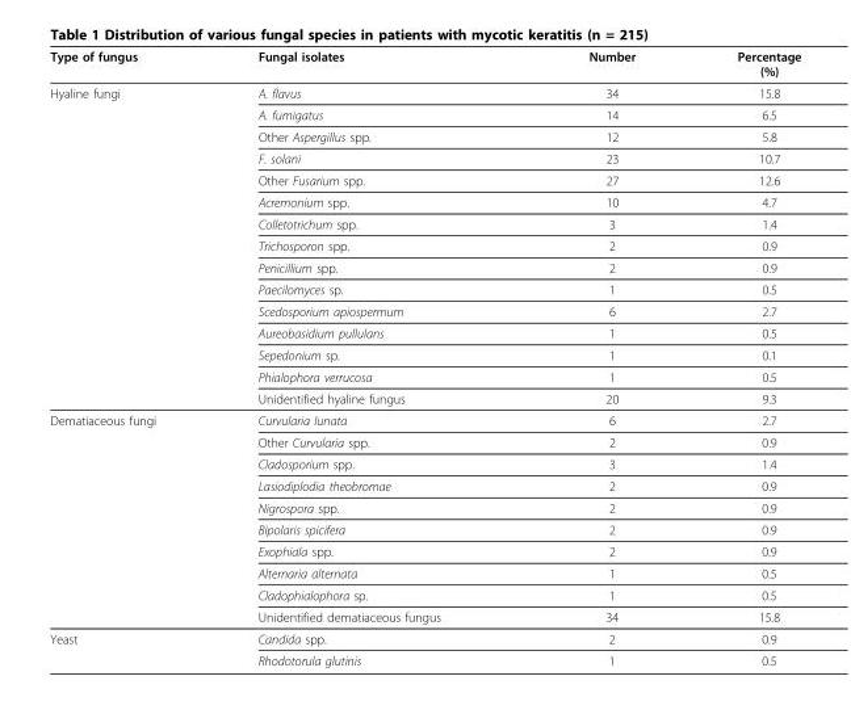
<table><thead><tr><td>Type of fungus</td><td>Fungal isolates</td><td>Number</td><td>Percentage (%)</td></tr></thead><tbody><tr><td rowspan="15">Hyaline fungi</td><td>A. flavus</td><td>34</td><td>15.8</td></tr><tr><td>A. fumigatus</td><td>14</td><td>6.5</td></tr><tr><td>Other Aspergillus spp.</td><td>12</td><td>5.8</td></tr><tr><td>F. solani</td><td>23</td><td>10.7</td></tr><tr><td>Other Fusarium spp.</td><td>27</td><td>12.6</td></tr><tr><td>Acremonium spp.</td><td>10</td><td>4.7</td></tr><tr><td>Colletotrichum spp.</td><td>3</td><td>1.4</td></tr><tr><td>Trichosporon spp.</td><td>2</td><td>0.9</td></tr><tr><td>Penicillium spp.</td><td>2</td><td>0.9</td></tr><tr><td>Paecilomyces sp.</td><td>1</td><td>0.5</td></tr><tr><td>Scedosporium apiospermum</td><td>6</td><td>2.7</td></tr><tr><td>Aureobasidium pullulans</td><td>1</td><td>0.5</td></tr><tr><td>Sepedonium sp.</td><td>1</td><td>0.1</td></tr><tr><td>Phialophora verrucosa</td><td>1</td><td>0.5</td></tr><tr><td>Unidentified hyaline fungus</td><td>20</td><td>9.3</td></tr><tr><td rowspan="10">Dematiaceous fungi</td><td>Curvularia lunata</td><td>6</td><td>2.7</td></tr><tr><td>Other Curvularia spp.</td><td>2</td><td>0.9</td></tr><tr><td>Cladosporium spp.</td><td>3</td><td>1.4</td></tr><tr><td>Lasiodiplodia theobromae</td><td>2</td><td>0.9</td></tr><tr><td>Nigrospora spp.</td><td>2</td><td>0.9</td></tr><tr><td>Bipolaris spicifera</td><td>2</td><td>0.9</td></tr><tr><td>Exophiala spp.</td><td>2</td><td>0.9</td></tr><tr><td>Alternaria alternata</td><td>1</td><td>0.5</td></tr><tr><td>Cladophialophora sp.</td><td>1</td><td>0.5</td></tr><tr><td>Unidentified dematiaceous fungus</td><td>34</td><td>15.8</td></tr><tr><td rowspan="2">Yeast</td><td>Candida spp.</td><td>2</td><td>0.9</td></tr><tr><td>Rhodotorula glutinis</td><td>1</td><td>0.5</td></tr></tbody></table>